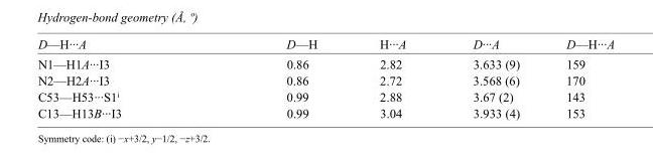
<table><tbody><tr><td>D—H···A</td><td>D—H</td><td>H···A</td><td>D···A</td><td>D—H···A</td></tr><tr><td>N1—H1A···I3</td><td>0.86</td><td>2.82</td><td>3.633 (9)</td><td>159</td></tr><tr><td>N2—H2A···I3</td><td>0.86</td><td>2.72</td><td>3.568 (6)</td><td>170</td></tr><tr><td>C53—H53···S1<sup>i</sup></td><td>0.99</td><td>2.88</td><td>3.67 (2)</td><td>143</td></tr><tr><td>C13—H13B···I3</td><td>0.99</td><td>3.04</td><td>3.933 (4)</td><td>153</td></tr></tbody></table>